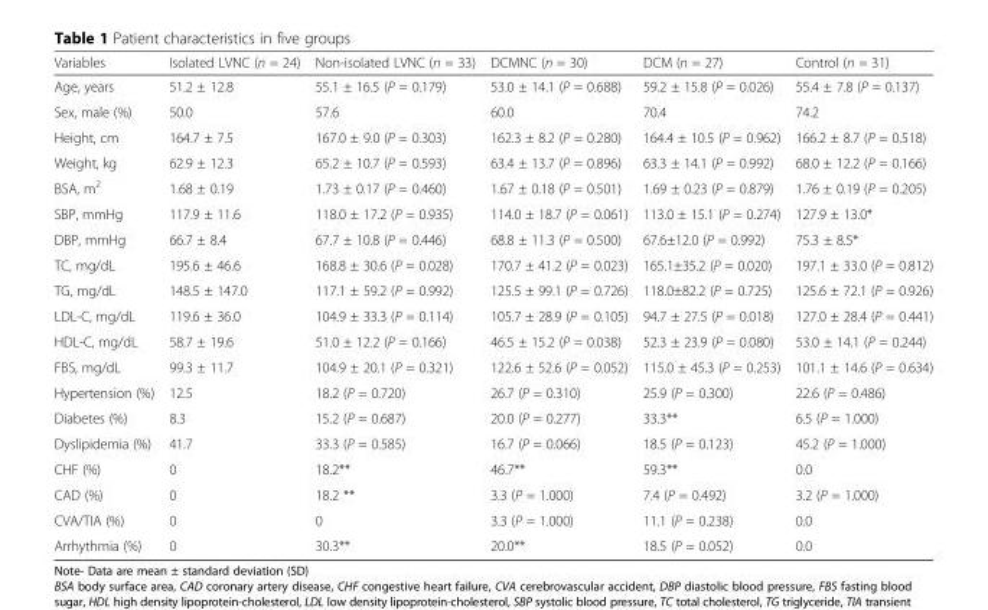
<table><thead><tr><td>Variables</td><td>Isolated LVNC (n = 24)</td><td>Non-isolated LVNC (n = 33)</td><td>DCMNC (n = 30)</td><td>DCM (n = 27)</td><td>Control (n = 31)</td></tr></thead><tbody><tr><td>Age, years</td><td>51.2 ± 12.8</td><td>55.1 ± 16.5 (P = 0.179)</td><td>53.0 ± 14.1 (P = 0.688)</td><td>59.2 ± 15.8 (P = 0.026)</td><td>55.4 ± 7.8 (P = 0.137)</td></tr><tr><td>Sex, male (%)</td><td>50.0</td><td>57.6</td><td>60.0</td><td>70.4</td><td>74.2</td></tr><tr><td>Height, cm</td><td>164.7 ± 7.5</td><td>167.0 ± 9.0 (P = 0.303)</td><td>162.3 ± 8.2 (P = 0.280)</td><td>164.4 ± 10.5 (P = 0.962)</td><td>166.2 ± 8.7 (P = 0.518)</td></tr><tr><td>Weight, kg</td><td>62.9 ± 12.3</td><td>65.2 ± 10.7 (P = 0.593)</td><td>63.4 ± 13.7 (P = 0.896)</td><td>63.3 ± 14.1 (P = 0.992)</td><td>68.0 ± 12.2 (P = 0.166)</td></tr><tr><td>BSA, m<sup>2</sup></td><td>1.68 ± 0.19</td><td>1.73 ± 0.17 (P = 0.460)</td><td>1.67 ± 0.18 (P = 0.501)</td><td>1.69 ± 0.23 (P = 0.879)</td><td>1.76 ± 0.19 (P = 0.205)</td></tr><tr><td>SBP, mmHg</td><td>117.9 ± 11.6</td><td>118.0 ± 17.2 (P = 0.935)</td><td>114.0 ± 18.7 (P = 0.061)</td><td>113.0 ± 15.1 (P = 0.274)</td><td>127.9 ± 13.0*</td></tr><tr><td>DBP, mmHg</td><td>66.7 ± 8.4</td><td>67.7 ± 10.8 (P = 0.446)</td><td>68.8 ± 11.3 (P = 0.500)</td><td>67.6±12.0 (P = 0.992)</td><td>75.3 ± 8.5*</td></tr><tr><td>TC, mg/dL</td><td>195.6 ± 46.6</td><td>168.8 ± 30.6 (P = 0.028)</td><td>170.7 ± 41.2 (P = 0.023)</td><td>165.1±35.2 (P = 0.020)</td><td>197.1 ± 33.0 (P = 0.812)</td></tr><tr><td>TG, mg/dL</td><td>148.5 ± 147.0</td><td>117.1 ± 59.2 (P = 0.992)</td><td>125.5 ± 99.1 (P = 0.726)</td><td>118.0±82.2 (P = 0.725)</td><td>125.6 ± 72.1 (P = 0.926)</td></tr><tr><td>LDL-C, mg/dL</td><td>119.6 ± 36.0</td><td>104.9 ± 33.3 (P = 0.114)</td><td>105.7 ± 28.9 (P = 0.105)</td><td>94.7 ± 27.5 (P = 0.018)</td><td>127.0 ± 28.4 (P = 0.441)</td></tr><tr><td>HDL-C, mg/dL</td><td>58.7 ± 19.6</td><td>51.0 ± 12.2 (P = 0.166)</td><td>46.5 ± 15.2 (P = 0.038)</td><td>52.3 ± 23.9 (P = 0.080)</td><td>53.0 ± 14.1 (P = 0.244)</td></tr><tr><td>FBS, mg/dL</td><td>99.3 ± 11.7</td><td>104.9 ± 20.1 (P = 0.321)</td><td>122.6 ± 52.6 (P = 0.052)</td><td>115.0 ± 45.3 (P = 0.253)</td><td>101.1 ± 14.6 (P = 0.634)</td></tr><tr><td>Hypertension (%)</td><td>12.5</td><td>18.2 (P = 0.720)</td><td>26.7 (P = 0.310)</td><td>25.9 (P = 0.300)</td><td>22.6 (P = 0.486)</td></tr><tr><td>Diabetes (%)</td><td>8.3</td><td>15.2 (P = 0.687)</td><td>20.0 (P = 0.277)</td><td>33.3**</td><td>6.5 (P = 1.000)</td></tr><tr><td>Dyslipidemia (%)</td><td>41.7</td><td>33.3 (P = 0.585)</td><td>16.7 (P = 0.066)</td><td>18.5 (P = 0.123)</td><td>45.2 (P = 1.000)</td></tr><tr><td>CHF (%)</td><td>0</td><td>18.2**</td><td>46.7**</td><td>59.3**</td><td>0.0</td></tr><tr><td>CAD (%)</td><td>0</td><td>18.2 **</td><td>3.3 (P = 1.000)</td><td>7.4 (P = 0.492)</td><td>3.2 (P = 1.000)</td></tr><tr><td>CVA/TIA (%)</td><td>0</td><td>0</td><td>3.3 (P = 1.000)</td><td>11.1 (P = 0.238)</td><td>0.0</td></tr><tr><td>Arrhythmia (%)</td><td>0</td><td>30.3**</td><td>20.0**</td><td>18.5 (P = 0.052)</td><td>0.0</td></tr></tbody></table>